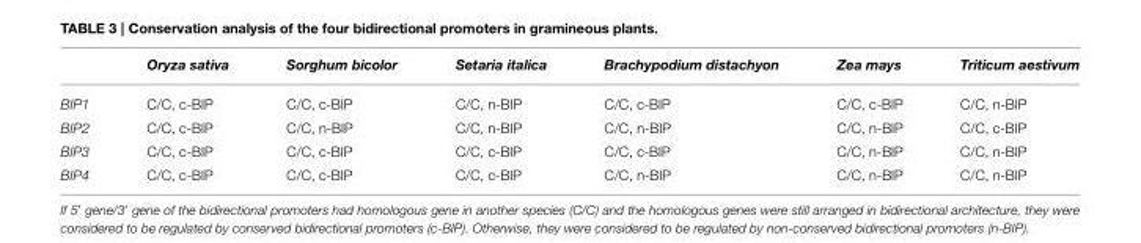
<table><thead><tr><td></td><td>Oryza sativa</td><td>Sorghum bicolor</td><td>Setaria italica</td><td>Brachypodium distachyon</td><td>Zea mays</td><td>Triticum aestivum</td></tr></thead><tbody><tr><td>BIP1</td><td>C/C, c-BIP</td><td>C/C, c-BIP</td><td>C/C, n-BIP</td><td>C/C, c-BIP</td><td>C/C, c-BIP</td><td>C/C, n-BIP</td></tr><tr><td>BIP2</td><td>C/C, c-BIP</td><td>C/C, n-BIP</td><td>C/C, n-BIP</td><td>C/C, n-BIP</td><td>C/C, n-BIP</td><td>C/C, c-BIP</td></tr><tr><td>BIP3</td><td>C/C, c-BIP</td><td>C/C, c-BIP</td><td>C/C, c-BIP</td><td>C/C, c-BIP</td><td>C/C, n-BIP</td><td>C/C, n-BIP</td></tr><tr><td>BIP4</td><td>C/C, c-BIP</td><td>C/C, c-BIP</td><td>C/C, c-BIP</td><td>C/C, n-BIP</td><td>C/C, n-BIP</td><td>C/C, n-BIP</td></tr></tbody></table>